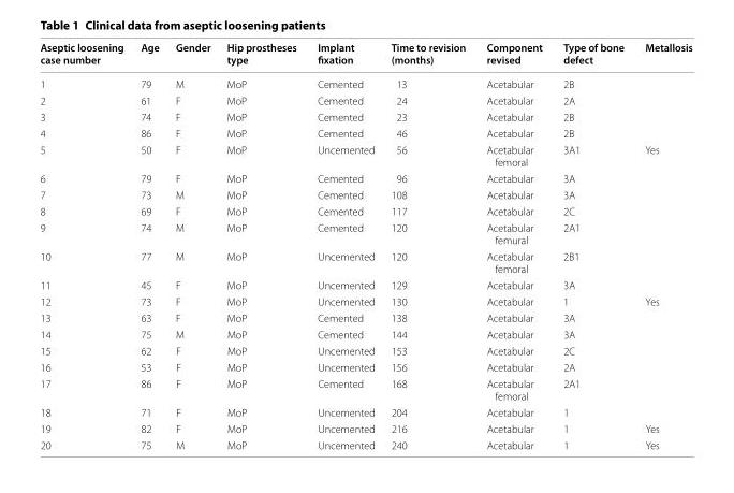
<table><thead><tr><td>Aseptic loosening case number</td><td>Age</td><td>Gender</td><td>Hip prostheses type</td><td>Implant fixation</td><td>Time to revision (months)</td><td>Component revised</td><td>Type of bone defect</td><td>Metallosis</td></tr></thead><tbody><tr><td>1</td><td>79</td><td>M</td><td>MoP</td><td>Cemented</td><td>13</td><td>Acetabular</td><td>2B</td><td></td></tr><tr><td>2</td><td>61</td><td>F</td><td>MoP</td><td>Cemented</td><td>24</td><td>Acetabular</td><td>2A</td><td></td></tr><tr><td>3</td><td>74</td><td>F</td><td>MoP</td><td>Cemented</td><td>23</td><td>Acetabular</td><td>2B</td><td></td></tr><tr><td>4</td><td>86</td><td>F</td><td>MoP</td><td>Cemented</td><td>46</td><td>Acetabular</td><td>2B</td><td></td></tr><tr><td>5</td><td>50</td><td>F</td><td>MoP</td><td>Uncemented</td><td>56</td><td>Acetabular femoral</td><td>3A1</td><td>Yes</td></tr><tr><td>6</td><td>79</td><td>F</td><td>MoP</td><td>Cemented</td><td>96</td><td>Acetabular</td><td>3A</td><td></td></tr><tr><td>7</td><td>73</td><td>M</td><td>MoP</td><td>Cemented</td><td>108</td><td>Acetabular</td><td>3A</td><td></td></tr><tr><td>8</td><td>69</td><td>F</td><td>MoP</td><td>Cemented</td><td>117</td><td>Acetabular</td><td>2C</td><td></td></tr><tr><td>9</td><td>74</td><td>M</td><td>MoP</td><td>Cemented</td><td>120</td><td>Acetabular femural</td><td>2A1</td><td></td></tr><tr><td>10</td><td>77</td><td>M</td><td>MoP</td><td>Uncemented</td><td>120</td><td>Acetabular femoral</td><td>2B1</td><td></td></tr><tr><td>11</td><td>45</td><td>F</td><td>MoP</td><td>Uncemented</td><td>129</td><td>Acetabular</td><td>3A</td><td></td></tr><tr><td>12</td><td>73</td><td>F</td><td>MoP</td><td>Uncemented</td><td>130</td><td>Acetabular</td><td>1</td><td>Yes</td></tr><tr><td>13</td><td>63</td><td>F</td><td>MoP</td><td>Cemented</td><td>138</td><td>Acetabular</td><td>3A</td><td></td></tr><tr><td>14</td><td>75</td><td>M</td><td>MoP</td><td>Cemented</td><td>144</td><td>Acetabular</td><td>3A</td><td></td></tr><tr><td>15</td><td>62</td><td>F</td><td>MoP</td><td>Uncemented</td><td>153</td><td>Acetabular</td><td>2C</td><td></td></tr><tr><td>16</td><td>53</td><td>F</td><td>MoP</td><td>Uncemented</td><td>156</td><td>Acetabular</td><td>2A</td><td></td></tr><tr><td>17</td><td>86</td><td>F</td><td>MoP</td><td>Cemented</td><td>168</td><td>Acetabular femoral</td><td>2A1</td><td></td></tr><tr><td>18</td><td>71</td><td>F</td><td>MoP</td><td>Uncemented</td><td>204</td><td>Acetabular</td><td>1</td><td></td></tr><tr><td>19</td><td>82</td><td>F</td><td>MoP</td><td>Uncemented</td><td>216</td><td>Acetabular</td><td>1</td><td>Yes</td></tr><tr><td>20</td><td>75</td><td>M</td><td>MoP</td><td>Uncemented</td><td>240</td><td>Acetabular</td><td>1</td><td>Yes</td></tr></tbody></table>